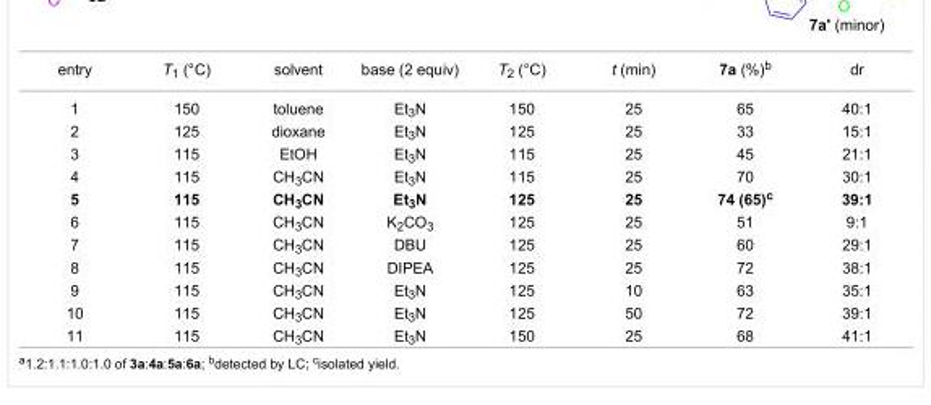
<table><tbody><tr><td>entry</td><td>T<sub>1</sub> (°C)</td><td>solvent</td><td>base (2 equiv)</td><td>T<sub>2</sub> (°C)</td><td>t (min)</td><td>7a (%)<sup>b</sup></td><td>dr</td></tr><tr><td>1</td><td>150</td><td>toluene</td><td>Et<sub>3</sub>N</td><td>150</td><td>25</td><td>65</td><td>40:1</td></tr><tr><td>2</td><td>125</td><td>dioxane</td><td>Et<sub>3</sub>N</td><td>125</td><td>25</td><td>33</td><td>15:1</td></tr><tr><td>3</td><td>115</td><td>EtOH</td><td>Et<sub>3</sub>N</td><td>115</td><td>25</td><td>45</td><td>21:1</td></tr><tr><td>4</td><td>115</td><td>CH<sub>3</sub>CN</td><td>Et<sub>3</sub>N</td><td>115</td><td>25</td><td>70</td><td>30:1</td></tr><tr><td>5</td><td>115</td><td>CH<sub>3</sub>CN</td><td>Et<sub>3</sub>N</td><td>125</td><td>25</td><td>74 (65)<sup>c</sup></td><td>39:1</td></tr><tr><td>6</td><td>115</td><td>CH<sub>3</sub>CN</td><td>K<sub>2</sub>CO<sub>3</sub></td><td>125</td><td>25</td><td>51</td><td>9:1</td></tr><tr><td>7</td><td>115</td><td>CH<sub>3</sub>CN</td><td>DBU</td><td>125</td><td>25</td><td>60</td><td>29:1</td></tr><tr><td>8</td><td>115</td><td>CH<sub>3</sub>CN</td><td>DIPEA</td><td>125</td><td>25</td><td>72</td><td>38:1</td></tr><tr><td>9</td><td>115</td><td>CH<sub>3</sub>CN</td><td>Et<sub>3</sub>N</td><td>125</td><td>10</td><td>63</td><td>35:1</td></tr><tr><td>10</td><td>115</td><td>CH<sub>3</sub>CN</td><td>Et<sub>3</sub>N</td><td>125</td><td>50</td><td>72</td><td>39:1</td></tr><tr><td>11</td><td>115</td><td>CH<sub>3</sub>CN</td><td>Et<sub>3</sub>N</td><td>150</td><td>25</td><td>68</td><td>41:1</td></tr></tbody></table>